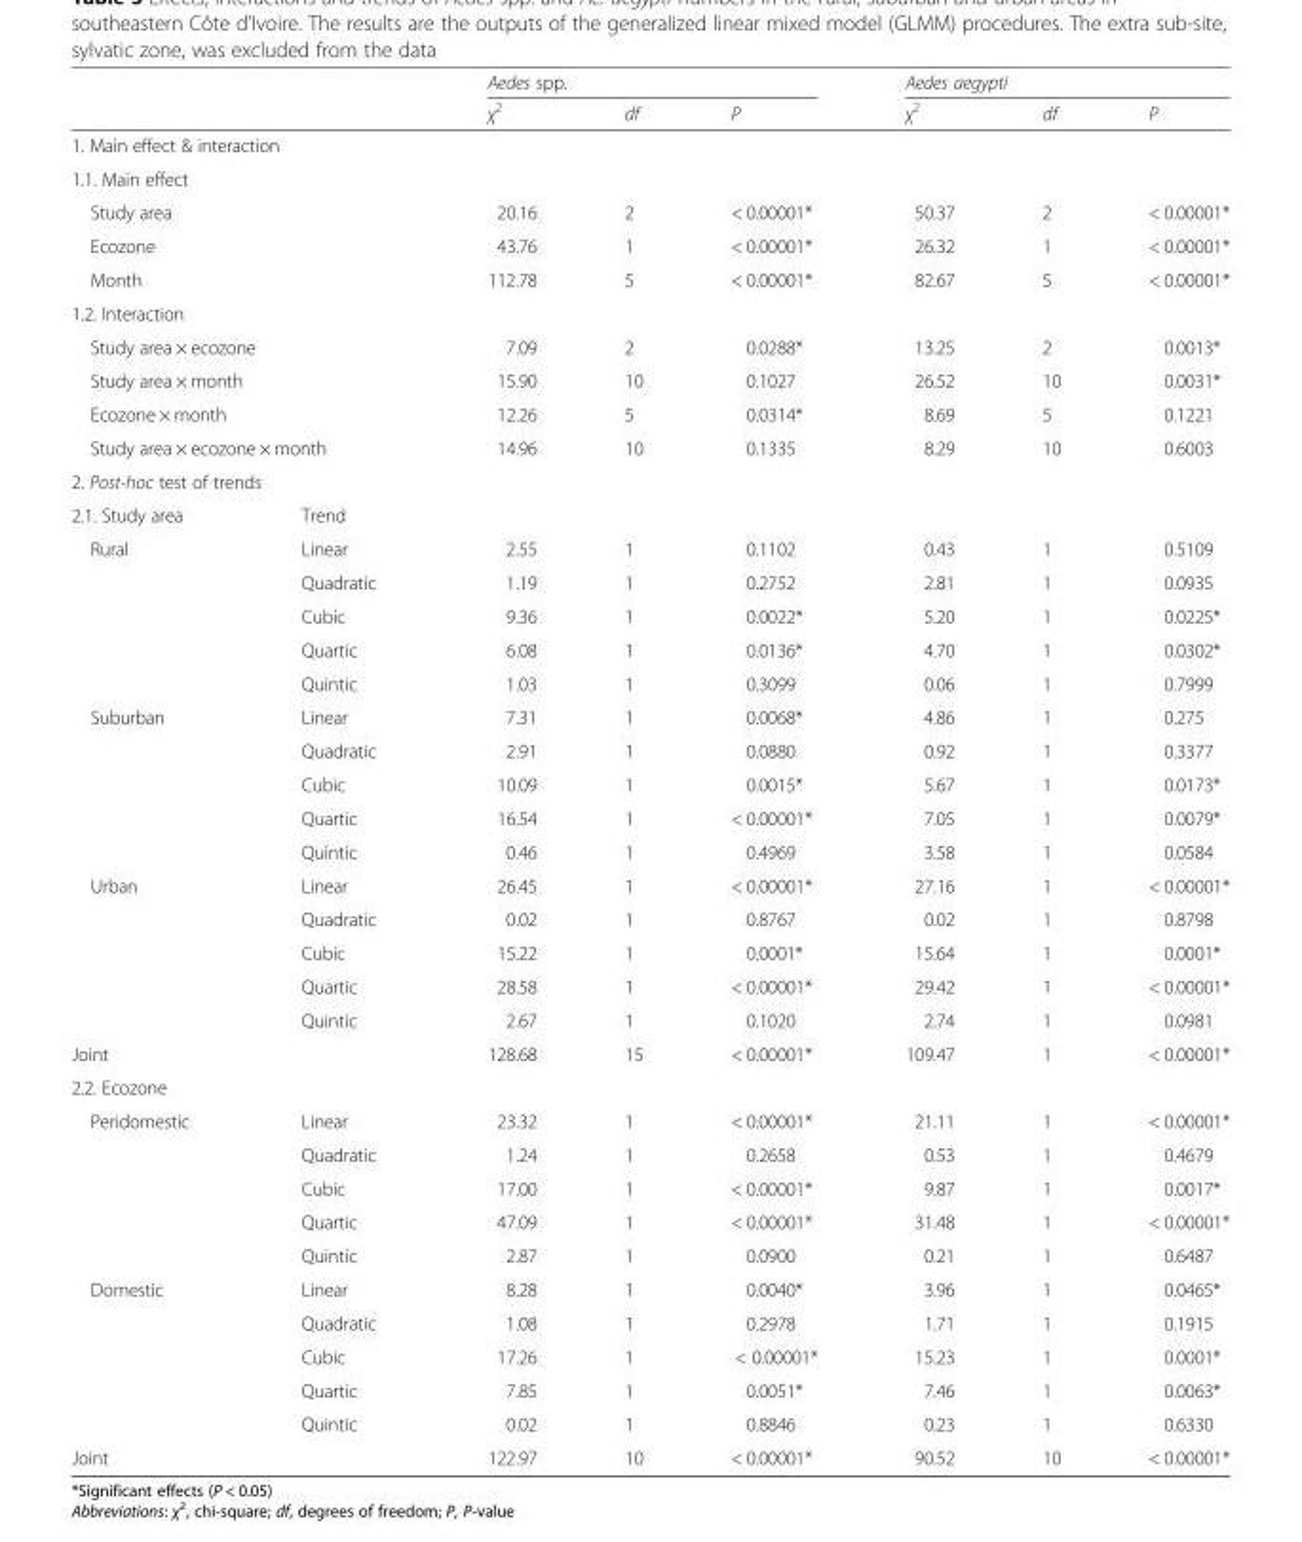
<table><thead><tr><td rowspan="2"></td><td rowspan="2"></td><td colspan="3">Aedes spp.</td><td colspan="3">Aedes aegypti</td></tr><tr><td>χ<sup>2</sup></td><td>df</td><td>P</td><td>χ<sup>2</sup></td><td>df</td><td>P</td></tr></thead><tbody><tr><td colspan="8">1. Main effect &amp; interaction</td></tr><tr><td colspan="8">1.1. Main effect</td></tr><tr><td colspan="2">Study area</td><td>20.16</td><td>2</td><td>&lt; 0.00001*</td><td>50.37</td><td>2</td><td>&lt; 0.00001*</td></tr><tr><td colspan="2">Ecozone</td><td>43.76</td><td>1</td><td>&lt; 0.00001*</td><td>26.32</td><td>1</td><td>&lt; 0.00001*</td></tr><tr><td colspan="2">Month</td><td>112.78</td><td>5</td><td>&lt; 0.00001*</td><td>82.67</td><td>5</td><td>&lt; 0.00001*</td></tr><tr><td colspan="8">1.2. Interaction</td></tr><tr><td colspan="2">Study area × ecozone</td><td>7.09</td><td>2</td><td>0.0288*</td><td>13.25</td><td>2</td><td>0.0013*</td></tr><tr><td colspan="2">Study area × month</td><td>15.90</td><td>10</td><td>0.1027</td><td>26.52</td><td>10</td><td>0.0031*</td></tr><tr><td colspan="2">Ecozone × month</td><td>12.26</td><td>5</td><td>0.0314*</td><td>8.69</td><td>5</td><td>0.1221</td></tr><tr><td colspan="2">Study area × ecozone × month</td><td>14.96</td><td>10</td><td>0.1335</td><td>8.29</td><td>10</td><td>0.6003</td></tr><tr><td colspan="8">2. Post-hoc test of trends</td></tr><tr><td>2.1. Study area</td><td>Trend</td><td colspan="6"></td></tr><tr><td rowspan="5">Rural</td><td>Linear</td><td>2.55</td><td>1</td><td>0.1102</td><td>0.43</td><td>1</td><td>0.5109</td></tr><tr><td>Quadratic</td><td>1.19</td><td>1</td><td>0.2752</td><td>2.81</td><td>1</td><td>0.0935</td></tr><tr><td>Cubic</td><td>9.36</td><td>1</td><td>0.0022*</td><td>5.20</td><td>1</td><td>0.0225*</td></tr><tr><td>Quartic</td><td>6.08</td><td>1</td><td>0.0136*</td><td>4.70</td><td>1</td><td>0.0302*</td></tr><tr><td>Quintic</td><td>1.03</td><td>1</td><td>0.3099</td><td>0.06</td><td>1</td><td>0.7999</td></tr><tr><td rowspan="5">Suburban</td><td>Linear</td><td>7.31</td><td>1</td><td>0.0068*</td><td>4.86</td><td>1</td><td>0.275</td></tr><tr><td>Quadratic</td><td>2.91</td><td>1</td><td>0.0880</td><td>0.92</td><td>1</td><td>0.3377</td></tr><tr><td>Cubic</td><td>10.09</td><td>1</td><td>0.0015*</td><td>5.67</td><td>1</td><td>0.0173*</td></tr><tr><td>Quartic</td><td>16.54</td><td>1</td><td>&lt; 0.00001*</td><td>7.05</td><td>1</td><td>0.0079*</td></tr><tr><td>Quintic</td><td>0.46</td><td>1</td><td>0.4969</td><td>3.58</td><td>1</td><td>0.0584</td></tr><tr><td rowspan="5">Urban</td><td>Linear</td><td>26.45</td><td>1</td><td>&lt; 0.00001*</td><td>27.16</td><td>1</td><td>&lt; 0.00001*</td></tr><tr><td>Quadratic</td><td>0.02</td><td>1</td><td>0.8767</td><td>0.02</td><td>1</td><td>0.8798</td></tr><tr><td>Cubic</td><td>15.22</td><td>1</td><td>0.0001*</td><td>15.64</td><td>1</td><td>0.0001*</td></tr><tr><td>Quartic</td><td>28.58</td><td>1</td><td>&lt; 0.00001*</td><td>29.42</td><td>1</td><td>&lt; 0.00001*</td></tr><tr><td>Quintic</td><td>2.67</td><td>1</td><td>0.1020</td><td>2.74</td><td>1</td><td>0.0981</td></tr><tr><td colspan="2">Joint</td><td>128.68</td><td>15</td><td>&lt; 0.00001*</td><td>109.47</td><td>1</td><td>&lt; 0.00001*</td></tr><tr><td colspan="8">2.2. Ecozone</td></tr><tr><td rowspan="5">Peridomestic</td><td>Linear</td><td>23.32</td><td>1</td><td>&lt; 0.00001*</td><td>21.11</td><td>1</td><td>&lt; 0.00001*</td></tr><tr><td>Quadratic</td><td>1.24</td><td>1</td><td>0.2658</td><td>0.53</td><td>1</td><td>0.4679</td></tr><tr><td>Cubic</td><td>17.00</td><td>1</td><td>&lt; 0.00001*</td><td>9.87</td><td>1</td><td>0.0017*</td></tr><tr><td>Quartic</td><td>47.09</td><td>1</td><td>&lt; 0.00001*</td><td>31.48</td><td>1</td><td>&lt; 0.00001*</td></tr><tr><td>Quintic</td><td>2.87</td><td>1</td><td>0.0900</td><td>0.21</td><td>1</td><td>0.6487</td></tr><tr><td rowspan="5">Domestic</td><td>Linear</td><td>8.28</td><td>1</td><td>0.0040*</td><td>3.96</td><td>1</td><td>0.0465*</td></tr><tr><td>Quadratic</td><td>1.08</td><td>1</td><td>0.2978</td><td>1.71</td><td>1</td><td>0.1915</td></tr><tr><td>Cubic</td><td>17.26</td><td>1</td><td>&lt; 0.00001*</td><td>15.23</td><td>1</td><td>0.0001*</td></tr><tr><td>Quartic</td><td>7.85</td><td>1</td><td>0.0051*</td><td>7.46</td><td>1</td><td>0.0063*</td></tr><tr><td>Quintic</td><td>0.02</td><td>1</td><td>0.8846</td><td>0.23</td><td>1</td><td>0.6330</td></tr><tr><td colspan="2">Joint</td><td>122.97</td><td>10</td><td>&lt; 0.00001*</td><td>90.52</td><td>10</td><td>&lt; 0.00001*</td></tr></tbody></table>